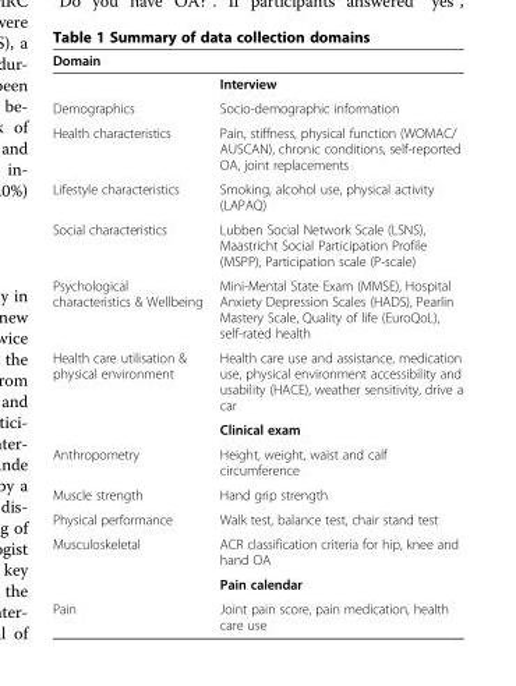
<table><thead><tr><td>Domain</td><td></td></tr></thead><tbody><tr><td></td><td>Interview</td></tr><tr><td>Demographics</td><td>Socio-demographic information</td></tr><tr><td>Health characteristics</td><td>Pain, stiffness, physical function (WOMAC/ AUSCAN), chronic conditions, self-reported OA, joint replacements</td></tr><tr><td>Lifestyle characteristics</td><td>Smoking, alcohol use, physical activity (LAPAQ)</td></tr><tr><td>Social characteristics</td><td>Lubben Social Network Scale (LSNS), Maastricht Social Participation Profile (MSPP), Participation scale (P-scale)</td></tr><tr><td>Psychological characteristics &amp; Wellbeing</td><td>Mini-Mental State Exam (MMSE), Hospital Anxiety Depression Scales (HADS), Pearlin Mastery Scale, Quality of life (EuroQoL), self-rated health</td></tr><tr><td rowspan="2">Health care utilisation &amp; physical environment</td><td>Health care use and assistance, medication use, physical environment accessibility and usability (HACE), weather sensitivity, drive a car</td></tr><tr><td>Clinical exam</td></tr><tr><td>Anthropometry</td><td>Height, weight, waist and calf circumference</td></tr><tr><td>Muscle strength</td><td>Hand grip strength</td></tr><tr><td>Physical performance</td><td>Walk test, balance test, chair stand test</td></tr><tr><td rowspan="2">Musculoskeletal</td><td>ACR classification criteria for hip, knee and hand OA</td></tr><tr><td>Pain calendar</td></tr><tr><td>Pain</td><td>Joint pain score, pain medication, health care use</td></tr></tbody></table>